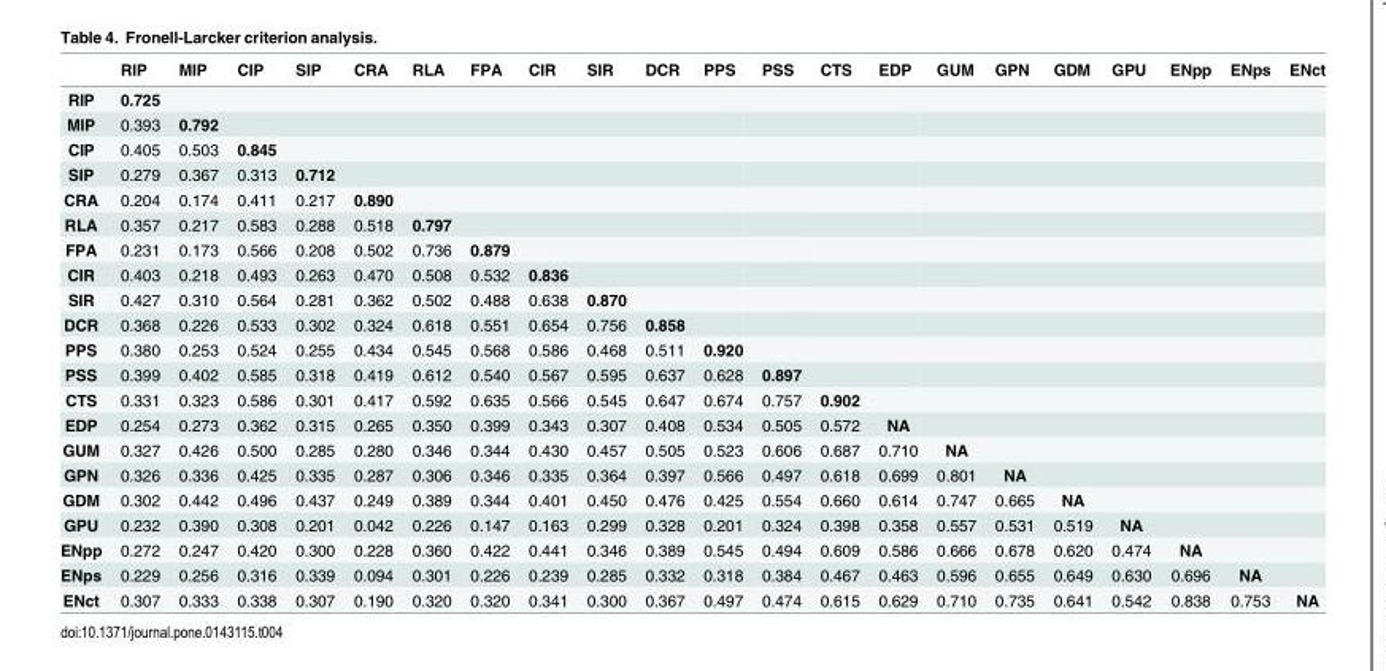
<table><thead><tr><td></td><td>RIP</td><td>MIP</td><td>CIP</td><td>SIP</td><td>CRA</td><td>RLA</td><td>FPA</td><td>CIR</td><td>SIR</td><td>DCR</td><td>PPS</td><td>PSS</td><td>CTS</td><td>EDP</td><td>GUM</td><td>GPN</td><td>GDM</td><td>GPU</td><td>ENpp</td><td>ENps</td><td>ENct</td></tr></thead><tbody><tr><td>RIP</td><td>0.725</td><td></td><td></td><td></td><td></td><td></td><td></td><td></td><td></td><td></td><td></td><td></td><td></td><td></td><td></td><td></td><td></td><td></td><td></td><td></td><td></td></tr><tr><td>MIP</td><td>0.393</td><td>0.792</td><td></td><td></td><td></td><td></td><td></td><td></td><td></td><td></td><td></td><td></td><td></td><td></td><td></td><td></td><td></td><td></td><td></td><td></td><td></td></tr><tr><td>CIP</td><td>0.405</td><td>0.503</td><td>0.845</td><td></td><td></td><td></td><td></td><td></td><td></td><td></td><td></td><td></td><td></td><td></td><td></td><td></td><td></td><td></td><td></td><td></td><td></td></tr><tr><td>SIP</td><td>0.279</td><td>0.367</td><td>0.313</td><td>0.712</td><td></td><td></td><td></td><td></td><td></td><td></td><td></td><td></td><td></td><td></td><td></td><td></td><td></td><td></td><td></td><td></td><td></td></tr><tr><td>CRA</td><td>0.204</td><td>0.174</td><td>0.411</td><td>0.217</td><td>0.890</td><td></td><td></td><td></td><td></td><td></td><td></td><td></td><td></td><td></td><td></td><td></td><td></td><td></td><td></td><td></td><td></td></tr><tr><td>RLA</td><td>0.357</td><td>0.217</td><td>0.583</td><td>0.288</td><td>0.518</td><td>0.797</td><td></td><td></td><td></td><td></td><td></td><td></td><td></td><td></td><td></td><td></td><td></td><td></td><td></td><td></td><td></td></tr><tr><td>FPA</td><td>0.231</td><td>0.173</td><td>0.566</td><td>0.208</td><td>0.502</td><td>0.736</td><td>0.879</td><td></td><td></td><td></td><td></td><td></td><td></td><td></td><td></td><td></td><td></td><td></td><td></td><td></td><td></td></tr><tr><td>CIR</td><td>0.403</td><td>0.218</td><td>0.493</td><td>0.263</td><td>0.470</td><td>0.508</td><td>0.532</td><td>0.836</td><td></td><td></td><td></td><td></td><td></td><td></td><td></td><td></td><td></td><td></td><td></td><td></td><td></td></tr><tr><td>SIR</td><td>0.427</td><td>0.310</td><td>0.564</td><td>0.281</td><td>0.362</td><td>0.502</td><td>0.488</td><td>0.638</td><td>0.870</td><td></td><td></td><td></td><td></td><td></td><td></td><td></td><td></td><td></td><td></td><td></td><td></td></tr><tr><td>DCR</td><td>0.368</td><td>0.226</td><td>0.533</td><td>0.302</td><td>0.324</td><td>0.618</td><td>0.551</td><td>0.654</td><td>0.756</td><td>0.858</td><td></td><td></td><td></td><td></td><td></td><td></td><td></td><td></td><td></td><td></td><td></td></tr><tr><td>PPS</td><td>0.380</td><td>0.253</td><td>0.524</td><td>0.255</td><td>0.434</td><td>0.545</td><td>0.568</td><td>0.586</td><td>0.468</td><td>0.511</td><td>0.920</td><td></td><td></td><td></td><td></td><td></td><td></td><td></td><td></td><td></td><td></td></tr><tr><td>PSS</td><td>0.399</td><td>0.402</td><td>0.585</td><td>0.318</td><td>0.419</td><td>0.612</td><td>0.540</td><td>0.567</td><td>0.595</td><td>0.637</td><td>0.628</td><td>0.897</td><td></td><td></td><td></td><td></td><td></td><td></td><td></td><td></td><td></td></tr><tr><td>CTS</td><td>0.331</td><td>0.323</td><td>0.586</td><td>0.301</td><td>0.417</td><td>0.592</td><td>0.635</td><td>0.566</td><td>0.545</td><td>0.647</td><td>0.674</td><td>0.757</td><td>0.902</td><td></td><td></td><td></td><td></td><td></td><td></td><td></td><td></td></tr><tr><td>EDP</td><td>0.254</td><td>0.273</td><td>0.362</td><td>0.315</td><td>0.265</td><td>0.350</td><td>0.399</td><td>0.343</td><td>0.307</td><td>0.408</td><td>0.534</td><td>0.505</td><td>0.572</td><td>NA</td><td></td><td></td><td></td><td></td><td></td><td></td><td></td></tr><tr><td>GUM</td><td>0.327</td><td>0.426</td><td>0.500</td><td>0.285</td><td>0.280</td><td>0.346</td><td>0.344</td><td>0.430</td><td>0.457</td><td>0.505</td><td>0.523</td><td>0.606</td><td>0.687</td><td>0.710</td><td>NA</td><td></td><td></td><td></td><td></td><td></td><td></td></tr><tr><td>GPN</td><td>0.326</td><td>0.336</td><td>0.425</td><td>0.335</td><td>0.287</td><td>0.306</td><td>0.346</td><td>0.335</td><td>0.364</td><td>0.397</td><td>0.566</td><td>0.497</td><td>0.618</td><td>0.699</td><td>0.801</td><td>NA</td><td></td><td></td><td></td><td></td><td></td></tr><tr><td>GDM</td><td>0.302</td><td>0.442</td><td>0.496</td><td>0.437</td><td>0.249</td><td>0.389</td><td>0.344</td><td>0.401</td><td>0.450</td><td>0.476</td><td>0.425</td><td>0.554</td><td>0.660</td><td>0.614</td><td>0.747</td><td>0.665</td><td>NA</td><td></td><td></td><td></td><td></td></tr><tr><td>GPU</td><td>0.232</td><td>0.390</td><td>0.308</td><td>0.201</td><td>0.042</td><td>0.226</td><td>0.147</td><td>0.163</td><td>0.299</td><td>0.328</td><td>0.201</td><td>0.324</td><td>0.398</td><td>0.358</td><td>0.557</td><td>0.531</td><td>0.519</td><td>NA</td><td></td><td></td><td></td></tr><tr><td>ENpp</td><td>0.272</td><td>0.247</td><td>0.420</td><td>0.300</td><td>0.228</td><td>0.360</td><td>0.422</td><td>0.441</td><td>0.346</td><td>0.389</td><td>0.545</td><td>0.494</td><td>0.609</td><td>0.586</td><td>0.666</td><td>0.678</td><td>0.620</td><td>0.474</td><td>NA</td><td></td><td></td></tr><tr><td>ENps</td><td>0.229</td><td>0.256</td><td>0.316</td><td>0.339</td><td>0.094</td><td>0.301</td><td>0.226</td><td>0.239</td><td>0.285</td><td>0.332</td><td>0.318</td><td>0.384</td><td>0.467</td><td>0.463</td><td>0.596</td><td>0.655</td><td>0.649</td><td>0.630</td><td>0.696</td><td>NA</td><td></td></tr><tr><td>ENct</td><td>0.307</td><td>0.333</td><td>0.338</td><td>0.307</td><td>0.190</td><td>0.320</td><td>0.320</td><td>0.341</td><td>0.300</td><td>0.367</td><td>0.497</td><td>0.474</td><td>0.615</td><td>0.629</td><td>0.710</td><td>0.735</td><td>0.641</td><td>0.542</td><td>0.838</td><td>0.753</td><td>NA</td></tr></tbody></table>